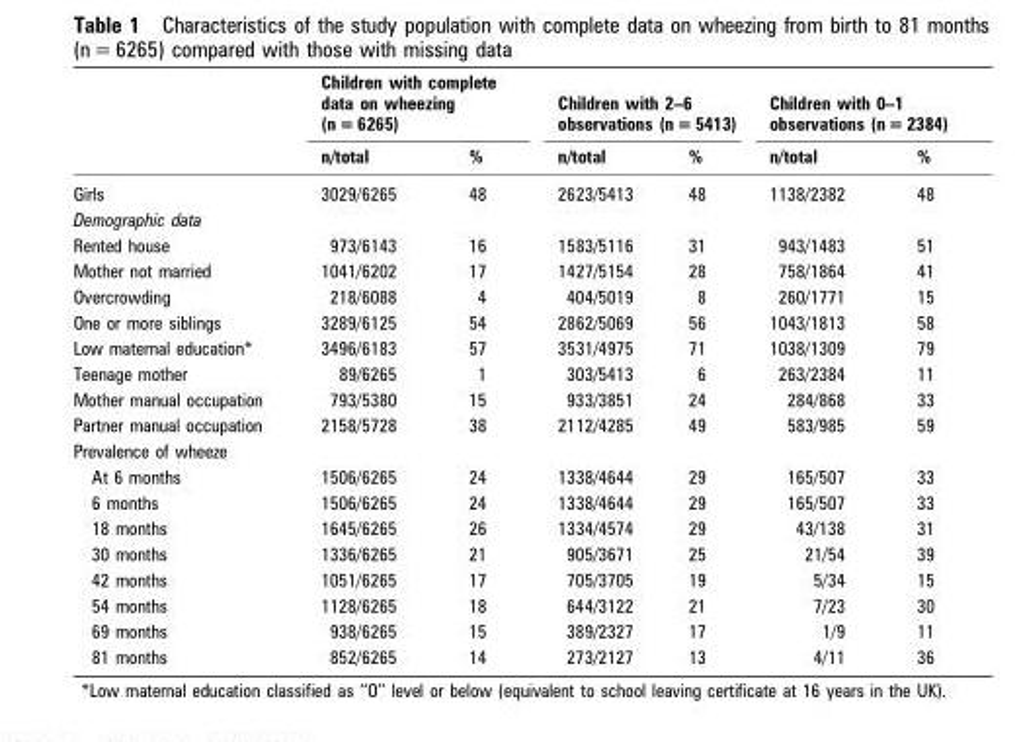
<table><thead><tr><td rowspan="2"></td><td colspan="2">Children with complete data on wheezing (n = 6265)</td><td colspan="2">Children with 2–6 observations (n = 5413)</td><td colspan="2">Children with 0–1 observations (n = 2384)</td></tr><tr><td>n/total</td><td>%</td><td>n/total</td><td>%</td><td>n/total</td><td>%</td></tr></thead><tbody><tr><td>Girls</td><td>3029/6265</td><td>48</td><td>2623/5413</td><td>48</td><td>1138/2382</td><td>48</td></tr><tr><td colspan="7">Demographic data</td></tr><tr><td>Rented house</td><td>973/6143</td><td>16</td><td>1583/5116</td><td>31</td><td>943/1483</td><td>51</td></tr><tr><td>Mother not married</td><td>1041/6202</td><td>17</td><td>1427/5154</td><td>28</td><td>758/1864</td><td>41</td></tr><tr><td>Overcrowding</td><td>218/6088</td><td>4</td><td>404/5019</td><td>8</td><td>260/1771</td><td>15</td></tr><tr><td>One or more siblings</td><td>3289/6125</td><td>54</td><td>2862/5069</td><td>56</td><td>1043/1813</td><td>58</td></tr><tr><td>Low maternal education*</td><td>3496/6183</td><td>57</td><td>3531/4975</td><td>71</td><td>1038/1309</td><td>79</td></tr><tr><td>Teenage mother</td><td>89/6265</td><td>1</td><td>303/5413</td><td>6</td><td>263/2384</td><td>11</td></tr><tr><td>Mother manual occupation</td><td>793/5380</td><td>15</td><td>933/3851</td><td>24</td><td>284/868</td><td>33</td></tr><tr><td>Partner manual occupation</td><td>2158/5728</td><td>38</td><td>2112/4285</td><td>49</td><td>583/985</td><td>59</td></tr><tr><td colspan="7">Prevalence of wheeze</td></tr><tr><td>At 6 months</td><td>1506/6265</td><td>24</td><td>1338/4644</td><td>29</td><td>165/507</td><td>33</td></tr><tr><td>6 months</td><td>1506/6265</td><td>24</td><td>1338/4644</td><td>29</td><td>165/507</td><td>33</td></tr><tr><td>18 months</td><td>1645/6265</td><td>26</td><td>1334/4574</td><td>29</td><td>43/138</td><td>31</td></tr><tr><td>30 months</td><td>1336/6265</td><td>21</td><td>905/3671</td><td>25</td><td>21/54</td><td>39</td></tr><tr><td>42 months</td><td>1051/6265</td><td>17</td><td>705/3705</td><td>19</td><td>5/34</td><td>15</td></tr><tr><td>54 months</td><td>1128/6265</td><td>18</td><td>644/3122</td><td>21</td><td>7/23</td><td>30</td></tr><tr><td>69 months</td><td>938/6265</td><td>15</td><td>389/2327</td><td>17</td><td>1/9</td><td>11</td></tr><tr><td>81 months</td><td>852/6265</td><td>14</td><td>273/2127</td><td>13</td><td>4/11</td><td>36</td></tr></tbody></table>